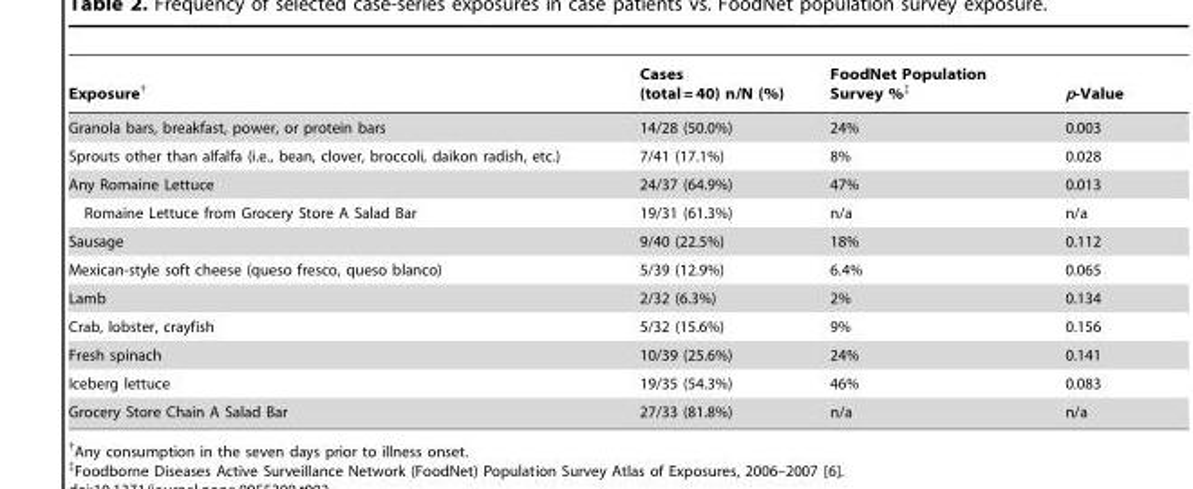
<table><thead><tr><td>Exposure†</td><td>Cases (total = 40) n/N (%)</td><td>FoodNet Population Survey %‡</td><td>p-Value</td></tr></thead><tbody><tr><td>Granola bars, breakfast, power, or protein bars</td><td>14/28 (50.0%)</td><td>24%</td><td>0.003</td></tr><tr><td>Sprouts other than alfalfa (i.e., bean, clover, broccoli, daikon radish, etc.)</td><td>7/41 (17.1%)</td><td>8%</td><td>0.028</td></tr><tr><td>Any Romaine Lettuce</td><td>24/37 (64.9%)</td><td>47%</td><td>0.013</td></tr><tr><td>Romaine Lettuce from Grocery Store A Salad Bar</td><td>19/31 (61.3%)</td><td>n/a</td><td>n/a</td></tr><tr><td>Sausage</td><td>9/40 (22.5%)</td><td>18%</td><td>0.112</td></tr><tr><td>Mexican-style soft cheese (queso fresco, queso blanco)</td><td>5/39 (12.9%)</td><td>6.4%</td><td>0.065</td></tr><tr><td>Lamb</td><td>2/32 (6.3%)</td><td>2%</td><td>0.134</td></tr><tr><td>Crab, lobster, crayfish</td><td>5/32 (15.6%)</td><td>9%</td><td>0.156</td></tr><tr><td>Fresh spinach</td><td>10/39 (25.6%)</td><td>24%</td><td>0.141</td></tr><tr><td>Iceberg lettuce</td><td>19/35 (54.3%)</td><td>46%</td><td>0.083</td></tr><tr><td>Grocery Store Chain A Salad Bar</td><td>27/33 (81.8%)</td><td>n/a</td><td>n/a</td></tr></tbody></table>